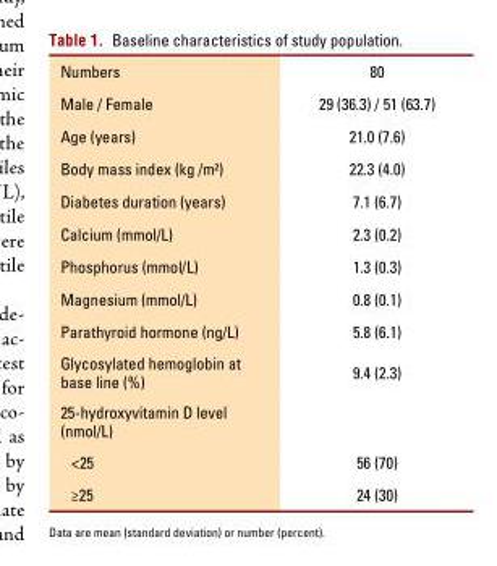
<table><tbody><tr><td>Numbers</td><td>80</td></tr><tr><td>Male / Female</td><td>29 (36.3) / 51 (63.7)</td></tr><tr><td>Age (years)</td><td>21.0 (7.6)</td></tr><tr><td>Body mass index (kg /m²)</td><td>22.3 (4.0)</td></tr><tr><td>Diabetes duration (years)</td><td>7.1 (6.7)</td></tr><tr><td>Calcium (mmol/L)</td><td>2.3 (0.2)</td></tr><tr><td>Phosphorus (mmol/L)</td><td>1.3 (0.3)</td></tr><tr><td>Magnesium (mmol/L)</td><td>0.8 (0.1)</td></tr><tr><td>Parathyroid hormone (ng/L)</td><td>5.8 (6.1)</td></tr><tr><td>Glycosylated hemoglobin at base line (%)</td><td>9.4 (2.3)</td></tr><tr><td colspan="2">25-hydroxyvitamin D level (nmol/L)</td></tr><tr><td>&lt;25</td><td>56 (70)</td></tr><tr><td>≥25</td><td>24 (30)</td></tr></tbody></table>